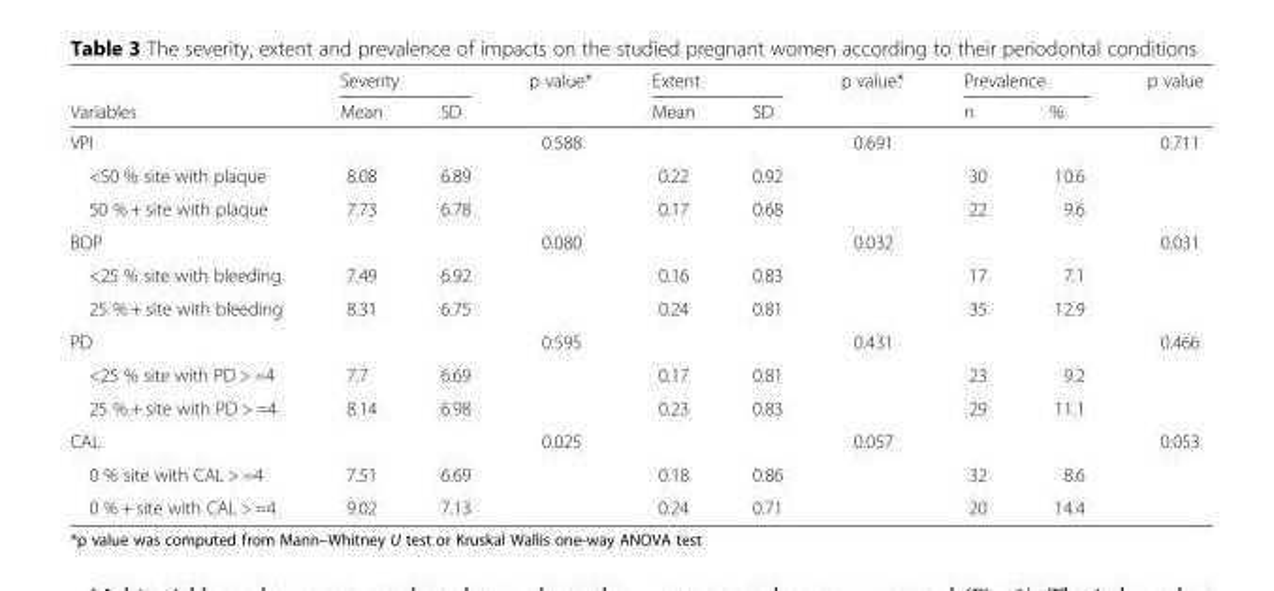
<table><thead><tr><td rowspan="2">Variables</td><td colspan="2">Severity</td><td rowspan="2">p value*</td><td colspan="2">Extent</td><td rowspan="2">p value*</td><td colspan="2">Prevalence</td><td rowspan="2">p value</td></tr><tr><td>Mean</td><td>SD</td><td>Mean</td><td>SD</td><td>n</td><td>%</td></tr></thead><tbody><tr><td>VPI</td><td></td><td></td><td>0.588</td><td></td><td></td><td>0.691</td><td></td><td></td><td>0.711</td></tr><tr><td>&lt;50 % site with plaque</td><td>8.08</td><td>6.89</td><td></td><td>0.22</td><td>0.92</td><td></td><td>30</td><td>10.6</td><td></td></tr><tr><td>50 % + site with plaque</td><td>7.73</td><td>6.78</td><td></td><td>0.17</td><td>0.68</td><td></td><td>22</td><td>9.6</td><td></td></tr><tr><td>BOP</td><td></td><td></td><td>0.080</td><td></td><td></td><td>0.032</td><td></td><td></td><td>0.031</td></tr><tr><td>&lt;25 % site with bleeding</td><td>7.49</td><td>6.92</td><td></td><td>0.16</td><td>0.83</td><td></td><td>17</td><td>7.1</td><td></td></tr><tr><td>25 % + site with bleeding</td><td>8.31</td><td>6.75</td><td></td><td>0.24</td><td>0.81</td><td></td><td>35</td><td>12.9</td><td></td></tr><tr><td>PD</td><td></td><td></td><td>0.595</td><td></td><td></td><td>0.431</td><td></td><td></td><td>0.466</td></tr><tr><td>&lt;25 % site with PD &gt; =4</td><td>7.7</td><td>6.69</td><td></td><td>0.17</td><td>0.81</td><td></td><td>23</td><td>9.2</td><td></td></tr><tr><td>25 % + site with PD &gt; =4</td><td>8.14</td><td>6.98</td><td></td><td>0.23</td><td>0.83</td><td></td><td>29</td><td>11.1</td><td></td></tr><tr><td>CAL</td><td></td><td></td><td>0.025</td><td></td><td></td><td>0.057</td><td></td><td></td><td>0.053</td></tr><tr><td>0 % site with CAL &gt; =4</td><td>7.51</td><td>6.69</td><td></td><td>0.18</td><td>0.86</td><td></td><td>32</td><td>8.6</td><td></td></tr><tr><td>0 % + site with CAL &gt; =4</td><td>9.02</td><td>7.13</td><td></td><td>0.24</td><td>0.71</td><td></td><td>20</td><td>14.4</td><td></td></tr></tbody></table>